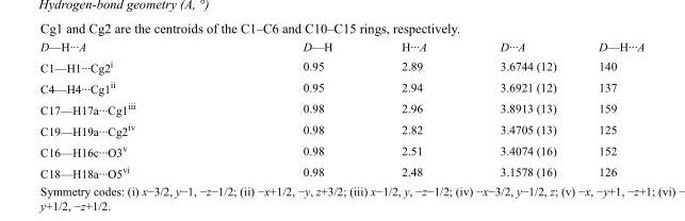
<table><tbody><tr><td>D—H···A</td><td>D—H</td><td>H···A</td><td>D···A</td><td>D—H···A</td></tr><tr><td>C1—H1···Cg2<sup>i</sup></td><td>0.95</td><td>2.89</td><td>3.6744 (12)</td><td>140</td></tr><tr><td>C4—H4···Cg1<sup>ii</sup></td><td>0.95</td><td>2.94</td><td>3.6921 (12)</td><td>137</td></tr><tr><td>C17—H17a···Cg1<sup>iii</sup></td><td>0.98</td><td>2.96</td><td>3.8913 (13)</td><td>159</td></tr><tr><td>C19—H19a···Cg2<sup>iv</sup></td><td>0.98</td><td>2.82</td><td>3.4705 (13)</td><td>125</td></tr><tr><td>C16—H16c···O3<sup>v</sup></td><td>0.98</td><td>2.51</td><td>3.4074 (16)</td><td>152</td></tr><tr><td>C18—H18a···O5<sup>vi</sup></td><td>0.98</td><td>2.48</td><td>3.1578 (16)</td><td>126</td></tr></tbody></table>